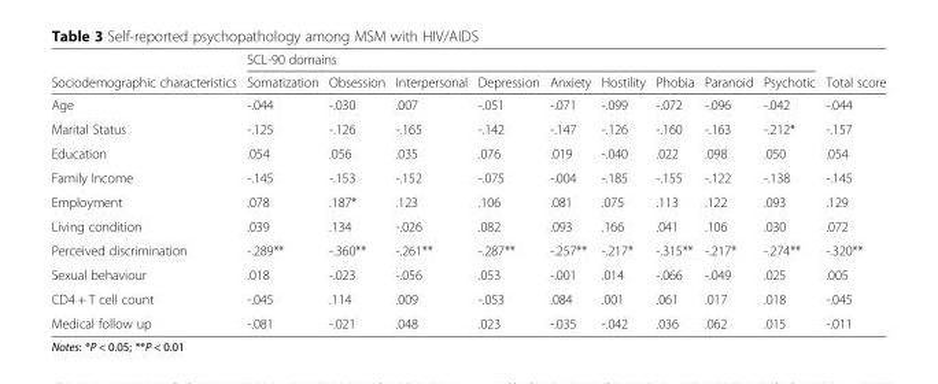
<table><thead><tr><td rowspan="2">Sociodemographic characteristics</td><td colspan="9">SCL-90 domains</td><td rowspan="2">Total score</td></tr><tr><td>Somatization</td><td>Obsession</td><td>Interpersonal</td><td>Depression</td><td>Anxiety</td><td>Hostility</td><td>Phobia</td><td>Paranoid</td><td>Psychotic</td></tr></thead><tbody><tr><td>Age</td><td>-.044</td><td>-.030</td><td>.007</td><td>-.051</td><td>-.071</td><td>-.099</td><td>-.072</td><td>-.096</td><td>-.042</td><td>-.044</td></tr><tr><td>Marital Status</td><td>-.125</td><td>-.126</td><td>-.165</td><td>-.142</td><td>-.147</td><td>-.126</td><td>-.160</td><td>-.163</td><td>-.212*</td><td>-.157</td></tr><tr><td>Education</td><td>.054</td><td>.056</td><td>.035</td><td>.076</td><td>.019</td><td>-.040</td><td>.022</td><td>.098</td><td>.050</td><td>.054</td></tr><tr><td>Family Income</td><td>-.145</td><td>-.153</td><td>-.152</td><td>-.075</td><td>-.004</td><td>-.185</td><td>-.155</td><td>-.122</td><td>-.138</td><td>-.145</td></tr><tr><td>Employment</td><td>.078</td><td>.187*</td><td>.123</td><td>.106</td><td>.081</td><td>.075</td><td>.113</td><td>.122</td><td>.093</td><td>.129</td></tr><tr><td>Living condition</td><td>.039</td><td>.134</td><td>-.026</td><td>.082</td><td>.093</td><td>.166</td><td>.041</td><td>.106</td><td>.030</td><td>.072</td></tr><tr><td>Perceived discrimination</td><td>-.289**</td><td>-.360**</td><td>-.261**</td><td>-.287**</td><td>-.257**</td><td>-.217*</td><td>-.315**</td><td>-.217*</td><td>-.274**</td><td>-.320**</td></tr><tr><td>Sexual behaviour</td><td>.018</td><td>-.023</td><td>-.056</td><td>.053</td><td>-.001</td><td>.014</td><td>-.066</td><td>-.049</td><td>.025</td><td>.005</td></tr><tr><td>CD4 + T cell count</td><td>-.045</td><td>.114</td><td>.009</td><td>-.053</td><td>.084</td><td>.001</td><td>.061</td><td>.017</td><td>.018</td><td>-.045</td></tr><tr><td>Medical follow up</td><td>-.081</td><td>-.021</td><td>.048</td><td>.023</td><td>-.035</td><td>-.042</td><td>.036</td><td>.062</td><td>.015</td><td>-.011</td></tr></tbody></table>